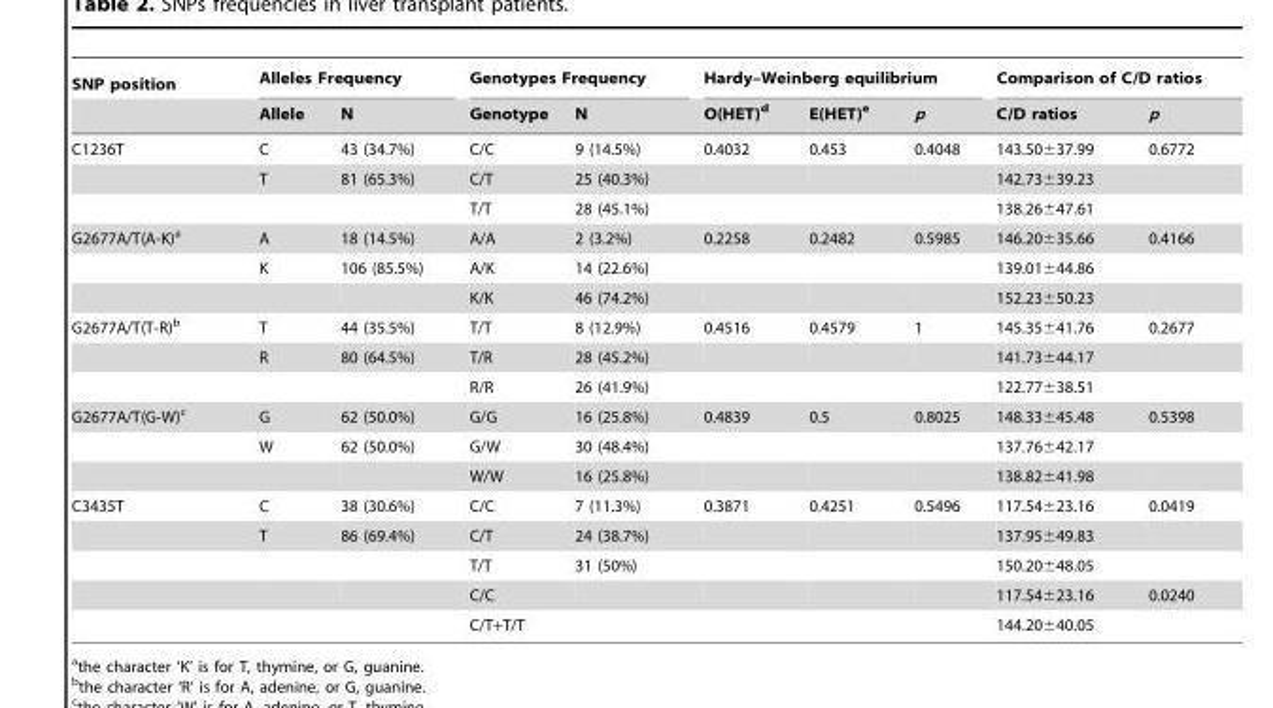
<table><thead><tr><td rowspan="2">SNP position</td><td colspan="2">Alleles Frequency</td><td colspan="2">Genotypes Frequency</td><td colspan="3">Hardy–Weinberg equilibrium</td><td colspan="2">Comparison of C/D ratios</td></tr><tr><td>Allele</td><td>N</td><td>Genotype</td><td>N</td><td>O(HET)d</td><td>E(HET)e</td><td>p</td><td>C/D ratios</td><td>p</td></tr></thead><tbody><tr><td rowspan="3">C1236T</td><td>C</td><td>43 (34.7%)</td><td>C/C</td><td>9 (14.5%)</td><td>0.4032</td><td>0.453</td><td>0.4048</td><td>143.50±37.99</td><td>0.6772</td></tr><tr><td>T</td><td>81 (65.3%)</td><td>C/T</td><td>25 (40.3%)</td><td></td><td></td><td></td><td>142.73±39.23</td><td></td></tr><tr><td></td><td></td><td>T/T</td><td>28 (45.1%)</td><td></td><td></td><td></td><td>138.26±47.61</td><td></td></tr><tr><td rowspan="3">G2677A/T(A-K)a</td><td>A</td><td>18 (14.5%)</td><td>A/A</td><td>2 (3.2%)</td><td>0.2258</td><td>0.2482</td><td>0.5985</td><td>146.20±35.66</td><td>0.4166</td></tr><tr><td>K</td><td>106 (85.5%)</td><td>A/K</td><td>14 (22.6%)</td><td></td><td></td><td></td><td>139.01±44.86</td><td></td></tr><tr><td></td><td></td><td>K/K</td><td>46 (74.2%)</td><td></td><td></td><td></td><td>152.23±50.23</td><td></td></tr><tr><td rowspan="3">G2677A/T(T-R)b</td><td>T</td><td>44 (35.5%)</td><td>T/T</td><td>8 (12.9%)</td><td>0.4516</td><td>0.4579</td><td>1</td><td>145.35±41.76</td><td>0.2677</td></tr><tr><td>R</td><td>80 (64.5%)</td><td>T/R</td><td>28 (45.2%)</td><td></td><td></td><td></td><td>141.73±44.17</td><td></td></tr><tr><td></td><td></td><td>R/R</td><td>26 (41.9%)</td><td></td><td></td><td></td><td>122.77±38.51</td><td></td></tr><tr><td rowspan="3">G2677A/T(G-W)c</td><td>G</td><td>62 (50.0%)</td><td>G/G</td><td>16 (25.8%)</td><td>0.4839</td><td>0.5</td><td>0.8025</td><td>148.33±45.48</td><td>0.5398</td></tr><tr><td>W</td><td>62 (50.0%)</td><td>G/W</td><td>30 (48.4%)</td><td></td><td></td><td></td><td>137.76±42.17</td><td></td></tr><tr><td></td><td></td><td>W/W</td><td>16 (25.8%)</td><td></td><td></td><td></td><td>138.82±41.98</td><td></td></tr><tr><td rowspan="5">C3435T</td><td>C</td><td>38 (30.6%)</td><td>C/C</td><td>7 (11.3%)</td><td>0.3871</td><td>0.4251</td><td>0.5496</td><td>117.54±23.16</td><td>0.0419</td></tr><tr><td>T</td><td>86 (69.4%)</td><td>C/T</td><td>24 (38.7%)</td><td></td><td></td><td></td><td>137.95±49.83</td><td></td></tr><tr><td></td><td></td><td>T/T</td><td>31 (50%)</td><td></td><td></td><td></td><td>150.20±48.05</td><td></td></tr><tr><td></td><td></td><td>C/C</td><td></td><td></td><td></td><td></td><td>117.54±23.16</td><td>0.0240</td></tr><tr><td></td><td></td><td>C/T+T/T</td><td></td><td></td><td></td><td></td><td>144.20±40.05</td><td></td></tr></tbody></table>